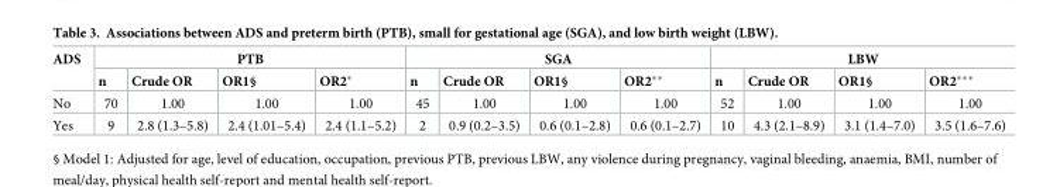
<table><thead><tr><td rowspan="2">ADS</td><td colspan="4">PTB</td><td colspan="4">SGA</td><td colspan="4">LBW</td></tr><tr><td>n</td><td>Crude OR</td><td>OR1§</td><td>OR2*</td><td>n</td><td>Crude OR</td><td>OR1§</td><td>OR2**</td><td>n</td><td>Crude OR</td><td>OR1§</td><td>OR2***</td></tr></thead><tbody><tr><td>No</td><td>70</td><td>1.00</td><td>1.00</td><td>1.00</td><td>45</td><td>1.00</td><td>1.00</td><td>1.00</td><td>52</td><td>1.00</td><td>1.00</td><td>1.00</td></tr><tr><td>Yes</td><td>9</td><td>2.8 (1.3–5.8)</td><td>2.4 (1.01–5.4)</td><td>2.4 (1.1–5.2)</td><td>2</td><td>0.9 (0.2–3.5)</td><td>0.6 (0.1–2.8)</td><td>0.6 (0.1–2.7)</td><td>10</td><td>4.3 (2.1–8.9)</td><td>3.1 (1.4–7.0)</td><td>3.5 (1.6–7.6)</td></tr></tbody></table>